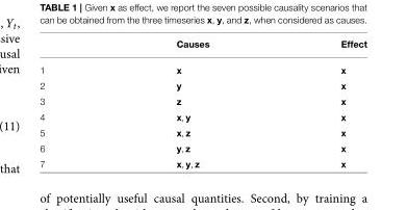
<table><thead><tr><td></td><td>Causes</td><td>Effect</td></tr></thead><tbody><tr><td>1</td><td>x</td><td>x</td></tr><tr><td>2</td><td>y</td><td>x</td></tr><tr><td>3</td><td>z</td><td>x</td></tr><tr><td>4</td><td>x, y</td><td>x</td></tr><tr><td>5</td><td>x, z</td><td>x</td></tr><tr><td>6</td><td>y, z</td><td>x</td></tr><tr><td>7</td><td>x, y, z</td><td>x</td></tr></tbody></table>